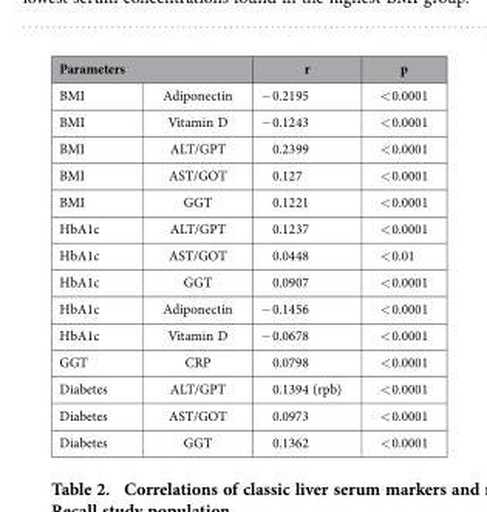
<table><thead><tr><td colspan="2">Parameters</td><td rowspan="2">r − 0.2195</td><td rowspan="2">p &lt; 0.0001</td></tr><tr><td>BMI</td><td>Adiponectin</td></tr></thead><tbody><tr><td>BMI</td><td>Vitamin D</td><td>− 0.1243</td><td>&lt; 0.0001</td></tr><tr><td>BMI</td><td>ALT/GPT</td><td>0.2399</td><td>&lt; 0.0001</td></tr><tr><td>BMI</td><td>AST/GOT</td><td>0.127</td><td>&lt; 0.0001</td></tr><tr><td>BMI</td><td>GGT</td><td>0.1221</td><td>&lt; 0.0001</td></tr><tr><td>HbA1c</td><td>ALT/GPT</td><td>0.1237</td><td>&lt; 0.0001</td></tr><tr><td>HbA1c</td><td>AST/GOT</td><td>0.0448</td><td>&lt; 0.01</td></tr><tr><td>HbA1c</td><td>GGT</td><td>0.0907</td><td>&lt; 0.0001</td></tr><tr><td>HbA1c</td><td>Adiponectin</td><td>− 0.1456</td><td>&lt; 0.0001</td></tr><tr><td>HbA1c</td><td>Vitamin D</td><td>− 0.0678</td><td>&lt; 0.0001</td></tr><tr><td>GGT</td><td>CRP</td><td>0.0798</td><td>&lt; 0.0001</td></tr><tr><td>Diabetes</td><td>ALT/GPT</td><td>0.1394 (rpb)</td><td>&lt; 0.0001</td></tr><tr><td>Diabetes</td><td>AST/GOT</td><td>0.0973</td><td>&lt; 0.0001</td></tr><tr><td>Diabetes</td><td>GGT</td><td>0.1362</td><td>&lt; 0.0001</td></tr></tbody></table>